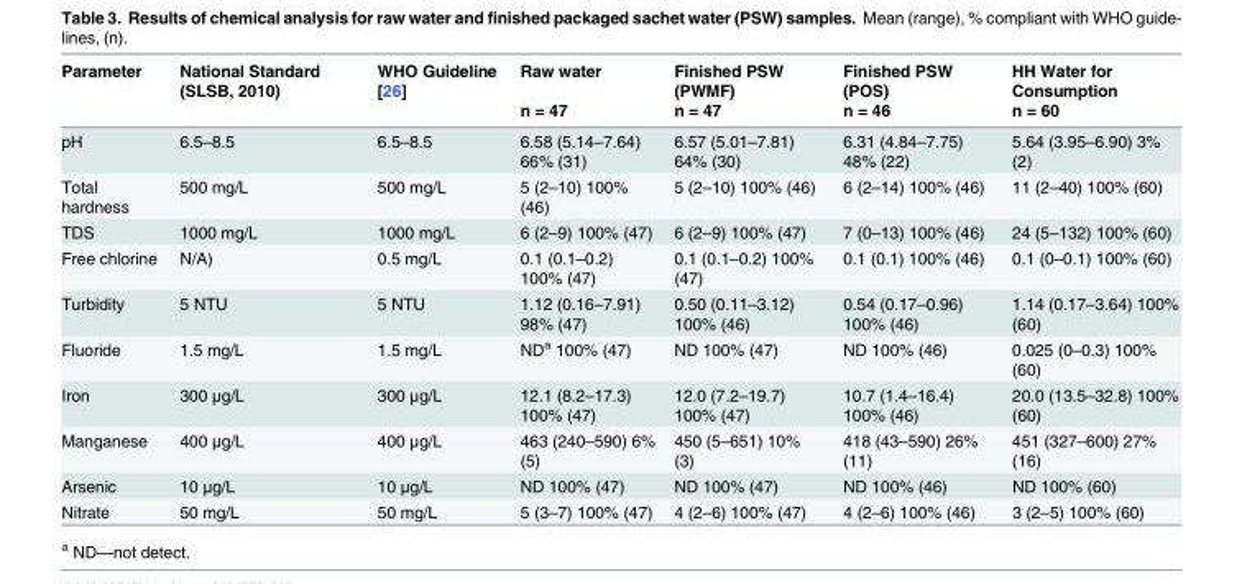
<table><thead><tr><td rowspan="2">Parameter</td><td rowspan="2">National Standard (SLSB, 2010)</td><td rowspan="2">WHO Guideline [26]</td><td rowspan="2">Raw water n = 47</td><td rowspan="2">Finished PSW (PWMF) n = 47</td><td rowspan="2">Finished PSW (POS) n = 46</td><td rowspan="2">HH Water for Consumption n = 60</td></tr><tr></tr></thead><tbody><tr><td>pH</td><td>6.5–8.5</td><td>6.5–8.5</td><td>6.58 (5.14–7.64) 66% (31)</td><td>6.57 (5.01–7.81) 64% (30)</td><td>6.31 (4.84–7.75) 48% (22)</td><td>5.64 (3.95–6.90) 3% (2)</td></tr><tr><td>Total hardness</td><td>500 mg/L</td><td>500 mg/L</td><td>5 (2–10) 100% (46)</td><td>5 (2–10) 100% (46)</td><td>6 (2–14) 100% (46)</td><td>11 (2–40) 100% (60)</td></tr><tr><td>TDS</td><td>1000 mg/L</td><td>1000 mg/L</td><td>6 (2–9) 100% (47)</td><td>6 (2–9) 100% (47)</td><td>7 (0–13) 100% (46)</td><td>24 (5–132) 100% (60)</td></tr><tr><td>Free chlorine</td><td>N/A)</td><td>0.5 mg/L</td><td>0.1 (0.1–0.2) 100% (47)</td><td>0.1 (0.1–0.2) 100% (47)</td><td>0.1 (0.1) 100% (46)</td><td>0.1 (0–0.1) 100% (60)</td></tr><tr><td>Turbidity</td><td>5 NTU</td><td>5 NTU</td><td>1.12 (0.16–7.91) 98% (47)</td><td>0.50 (0.11–3.12) 100% (46)</td><td>0.54 (0.17–0.96) 100% (46)</td><td>1.14 (0.17–3.64) 100% (60)</td></tr><tr><td>Fluoride</td><td>1.5 mg/L</td><td>1.5 mg/L</td><td>ND<sup>a</sup> 100% (47)</td><td>ND 100% (47)</td><td>ND 100% (46)</td><td>0.025 (0–0.3) 100% (60)</td></tr><tr><td>Iron</td><td>300 μg/L</td><td>300 μg/L</td><td>12.1 (8.2–17.3) 100% (47)</td><td>12.0 (7.2–19.7) 100% (47)</td><td>10.7 (1.4–16.4) 100% (46)</td><td>20.0 (13.5–32.8) 100% (60)</td></tr><tr><td>Manganese</td><td>400 μg/L</td><td>400 μg/L</td><td>463 (240–590) 6% (5)</td><td>450 (5–651) 10% (3)</td><td>418 (43–590) 26% (11)</td><td>451 (327–600) 27% (16)</td></tr><tr><td>Arsenic</td><td>10 μg/L</td><td>10 μg/L</td><td>ND 100% (47)</td><td>ND 100% (47)</td><td>ND 100% (46)</td><td>ND 100% (60)</td></tr><tr><td>Nitrate</td><td>50 mg/L</td><td>50 mg/L</td><td>5 (3–7) 100% (47)</td><td>4 (2–6) 100% (47)</td><td>4 (2–6) 100% (46)</td><td>3 (2–5) 100% (60)</td></tr></tbody></table>